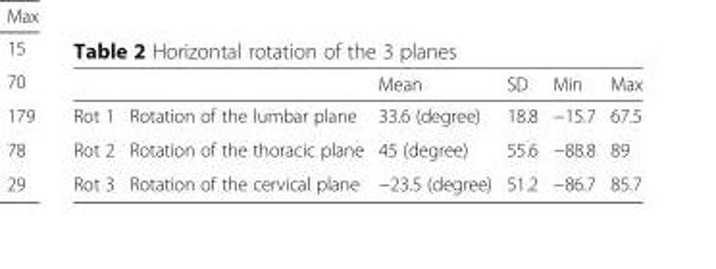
<table><thead><tr><td></td><td></td><td>Mean</td><td>SD</td><td>Min</td><td>Max</td></tr></thead><tbody><tr><td>Rot 1</td><td>Rotation of the lumbar plane</td><td>33.6 (degree)</td><td>18.8</td><td>−15.7</td><td>67.5</td></tr><tr><td>Rot 2</td><td>Rotation of the thoracic plane</td><td>45 (degree)</td><td>55.6</td><td>−88.8</td><td>89</td></tr><tr><td>Rot 3</td><td>Rotation of the cervical plane</td><td>−23.5 (degree)</td><td>51.2</td><td>−86.7</td><td>85.7</td></tr></tbody></table>